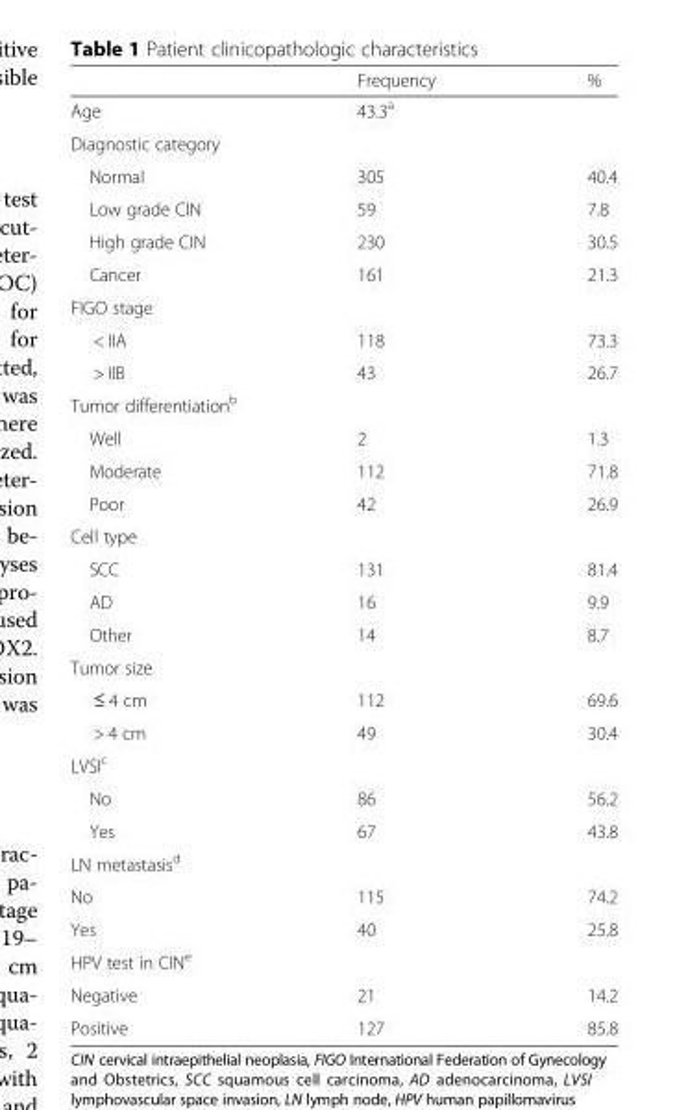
<table><thead><tr><td></td><td>Frequency</td><td>%</td></tr></thead><tbody><tr><td>Age</td><td>43.3<sup>a</sup></td><td></td></tr><tr><td colspan="3">Diagnostic category</td></tr><tr><td>Normal</td><td>305</td><td>40.4</td></tr><tr><td>Low grade CIN</td><td>59</td><td>7.8</td></tr><tr><td>High grade CIN</td><td>230</td><td>30.5</td></tr><tr><td>Cancer</td><td>161</td><td>21.3</td></tr><tr><td colspan="3">FIGO stage</td></tr><tr><td>&lt; IIA</td><td>118</td><td>73.3</td></tr><tr><td>&gt; IIB</td><td>43</td><td>26.7</td></tr><tr><td colspan="3">Tumor differentiation<sup>b</sup></td></tr><tr><td>Well</td><td>2</td><td>1.3</td></tr><tr><td>Moderate</td><td>112</td><td>71.8</td></tr><tr><td>Poor</td><td>42</td><td>26.9</td></tr><tr><td colspan="3">Cell type</td></tr><tr><td>SCC</td><td>131</td><td>81.4</td></tr><tr><td>AD</td><td>16</td><td>9.9</td></tr><tr><td>Other</td><td>14</td><td>8.7</td></tr><tr><td colspan="3">Tumor size</td></tr><tr><td>≤ 4 cm</td><td>112</td><td>69.6</td></tr><tr><td>&gt; 4 cm</td><td>49</td><td>30.4</td></tr><tr><td colspan="3">LVSI<sup>c</sup></td></tr><tr><td>No</td><td>86</td><td>56.2</td></tr><tr><td>Yes</td><td>67</td><td>43.8</td></tr><tr><td colspan="3">LN metastasis<sup>d</sup></td></tr><tr><td>No</td><td>115</td><td>74.2</td></tr><tr><td>Yes</td><td>40</td><td>25.8</td></tr><tr><td colspan="3">HPV test in CIN<sup>e</sup></td></tr><tr><td>Negative</td><td>21</td><td>14.2</td></tr><tr><td>Positive</td><td>127</td><td>85.8</td></tr></tbody></table>